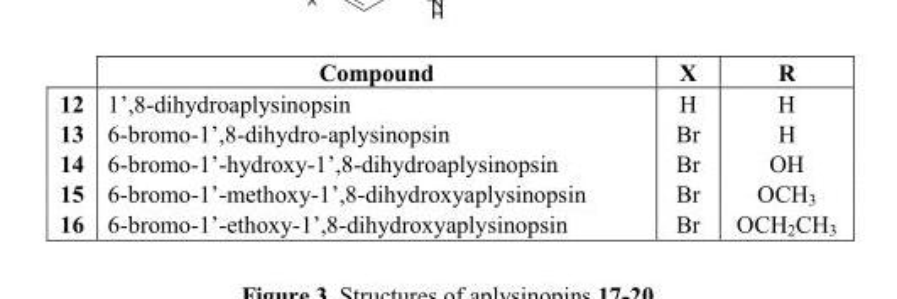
<table><thead><tr><td></td><td>Compound</td><td>X</td><td>R</td></tr></thead><tbody><tr><td>12</td><td>1’,8-dihydroaplysinopsin</td><td>H</td><td>H</td></tr><tr><td>13</td><td>6-bromo-1’,8-dihydro-aplysinopsin</td><td>Br</td><td>H</td></tr><tr><td>14</td><td>6-bromo-1’-hydroxy-1’,8-dihydroaplysinopsin</td><td>Br</td><td>OH</td></tr><tr><td>15</td><td>6-bromo-1’-methoxy-1’,8-dihydroxyaplysinopsin</td><td>Br</td><td>OCH<sub>3</sub></td></tr><tr><td>16</td><td>6-bromo-1’-ethoxy-1’,8-dihydroxyaplysinopsin</td><td>Br</td><td>OCH<sub>2</sub>CH<sub>3</sub></td></tr></tbody></table>